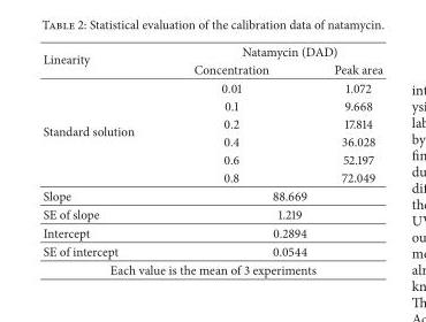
<table><thead><tr><td rowspan="2">Linearity</td><td colspan="2">Natamycin (DAD)</td></tr><tr><td>Concentration</td><td>Peak area</td></tr></thead><tbody><tr><td rowspan="6">Standard solution</td><td>0.01</td><td>1.072</td></tr><tr><td>0.1</td><td>9.668</td></tr><tr><td>0.2</td><td>17.814</td></tr><tr><td>0.4</td><td>36.028</td></tr><tr><td>0.6</td><td>52.197</td></tr><tr><td>0.8</td><td>72.049</td></tr><tr><td>Slope</td><td colspan="2">88.669</td></tr><tr><td>SE of slope</td><td colspan="2">1.219</td></tr><tr><td>Intercept</td><td colspan="2">0.2894</td></tr><tr><td>SE of intercept</td><td colspan="2">0.0544</td></tr><tr><td colspan="3">Each value is the mean of 3 experiments</td></tr></tbody></table>